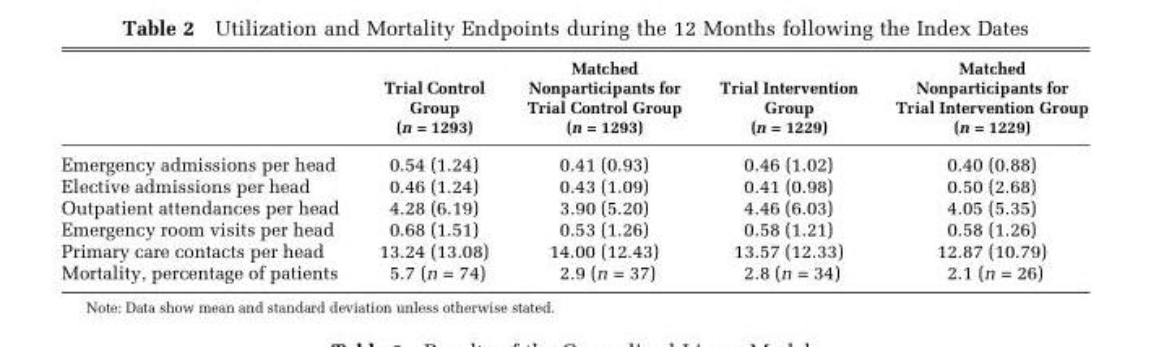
<table><thead><tr><td></td><td>Trial Control Group (n = 1293)</td><td>Matched Nonparticipants for Trial Control Group (n = 1293)</td><td>Trial Intervention Group (n = 1229)</td><td>Matched Nonparticipants for Trial Intervention Group (n = 1229)</td></tr></thead><tbody><tr><td>Emergency admissions per head</td><td>0.54 (1.24)</td><td>0.41 (0.93)</td><td>0.46 (1.02)</td><td>0.40 (0.88)</td></tr><tr><td>Elective admissions per head</td><td>0.46 (1.24)</td><td>0.43 (1.09)</td><td>0.41 (0.98)</td><td>0.50 (2.68)</td></tr><tr><td>Outpatient attendances per head</td><td>4.28 (6.19)</td><td>3.90 (5.20)</td><td>4.46 (6.03)</td><td>4.05 (5.35)</td></tr><tr><td>Emergency room visits per head</td><td>0.68 (1.51)</td><td>0.53 (1.26)</td><td>0.58 (1.21)</td><td>0.58 (1.26)</td></tr><tr><td>Primary care contacts per head</td><td>13.24 (13.08)</td><td>14.00 (12.43)</td><td>13.57 (12.33)</td><td>12.87 (10.79)</td></tr><tr><td>Mortality, percentage of patients</td><td>5.7 (n = 74)</td><td>2.9 (n = 37)</td><td>2.8 (n = 34)</td><td>2.1 (n = 26)</td></tr></tbody></table>